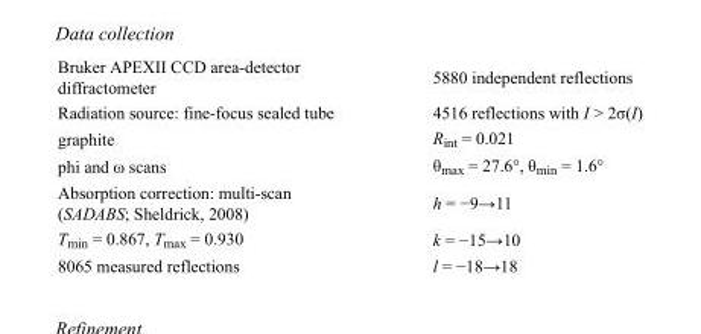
<table><tbody><tr><td>Bruker APEXII CCD area-detector diffractometer</td><td>5880 independent reflections</td></tr><tr><td>Radiation source: fine-focus sealed tube</td><td>4516 reflections with I &gt; 2σ(I)</td></tr><tr><td>graphite</td><td>R<sub>int</sub> = 0.021</td></tr><tr><td>phi and ω scans</td><td>θ<sub>max</sub> = 27.6°, θ<sub>min</sub> = 1.6°</td></tr><tr><td>Absorption correction: multi-scan (SADABS; Sheldrick, 2008)</td><td>h = −9→11</td></tr><tr><td>T<sub>min</sub> = 0.867, T<sub>max</sub> = 0.930</td><td>k = −15→10</td></tr><tr><td>8065 measured reflections</td><td>l = −18→18</td></tr></tbody></table>